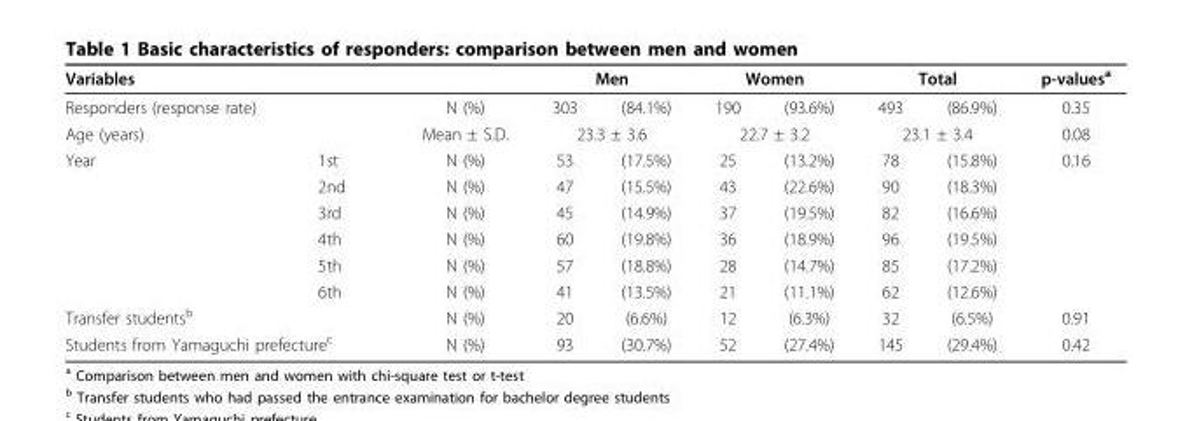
<table><thead><tr><td rowspan="2">Variables Responders (response rate)</td><td rowspan="2"></td><td rowspan="2">N (%)</td><td colspan="2">Men</td><td colspan="2">Women</td><td colspan="2">Total</td><td rowspan="2">p-values<sup>a</sup> 0.35</td></tr><tr><td>303</td><td>(84.1%)</td><td>190</td><td>(93.6%)</td><td>493</td><td>(86.9%)</td></tr></thead><tbody><tr><td>Age (years)</td><td></td><td>Mean ± S.D.</td><td colspan="2">23.3 ± 3.6</td><td colspan="2">22.7 ± 3.2</td><td colspan="2">23.1 ± 3.4</td><td>0.08</td></tr><tr><td rowspan="6">Year</td><td>1st</td><td>N (%)</td><td>53</td><td>(17.5%)</td><td>25</td><td>(13.2%)</td><td>78</td><td>(15.8%)</td><td>0.16</td></tr><tr><td>2nd</td><td>N (%)</td><td>47</td><td>(15.5%)</td><td>43</td><td>(22.6%)</td><td>90</td><td>(18.3%)</td><td></td></tr><tr><td>3rd</td><td>N (%)</td><td>45</td><td>(14.9%)</td><td>37</td><td>(19.5%)</td><td>82</td><td>(16.6%)</td><td></td></tr><tr><td>4th</td><td>N (%)</td><td>60</td><td>(19.8%)</td><td>36</td><td>(18.9%)</td><td>96</td><td>(19.5%)</td><td></td></tr><tr><td>5th</td><td>N (%)</td><td>57</td><td>(18.8%)</td><td>28</td><td>(14.7%)</td><td>85</td><td>(17.2%)</td><td></td></tr><tr><td>6th</td><td>N (%)</td><td>41</td><td>(13.5%)</td><td>21</td><td>(11.1%)</td><td>62</td><td>(12.6%)</td><td></td></tr><tr><td colspan="2">Transfer students<sup>b</sup></td><td>N (%)</td><td>20</td><td>(6.6%)</td><td>12</td><td>(6.3%)</td><td>32</td><td>(6.5%)</td><td>0.91</td></tr><tr><td colspan="2">Students from Yamaguchi prefecture<sup>c</sup></td><td>N (%)</td><td>93</td><td>(30.7%)</td><td>52</td><td>(27.4%)</td><td>145</td><td>(29.4%)</td><td>0.42</td></tr></tbody></table>